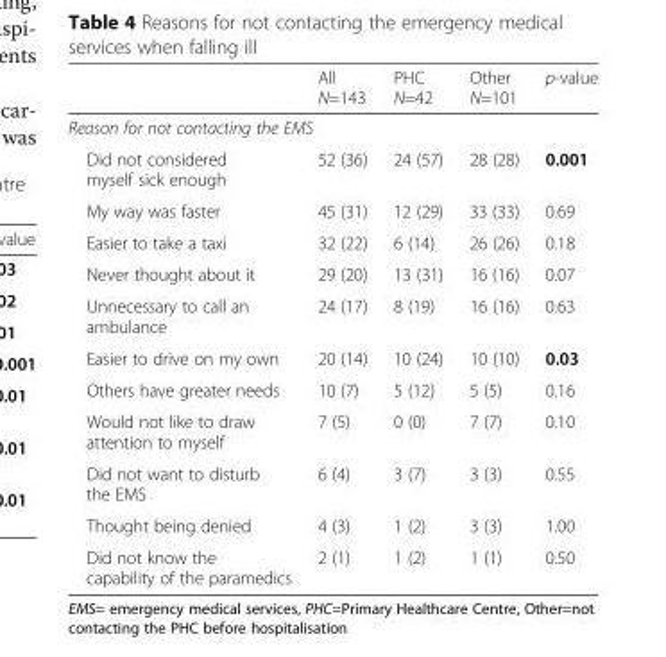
<table><thead><tr><td></td><td>All N=143</td><td>PHC N=42</td><td>Other N=101</td><td>p-value</td></tr></thead><tbody><tr><td colspan="5">Reason for not contacting the EMS</td></tr><tr><td>Did not considered myself sick enough</td><td>52 (36)</td><td>24 (57)</td><td>28 (28)</td><td>0.001</td></tr><tr><td>My way was faster</td><td>45 (31)</td><td>12 (29)</td><td>33 (33)</td><td>0.69</td></tr><tr><td>Easier to take a taxi</td><td>32 (22)</td><td>6 (14)</td><td>26 (26)</td><td>0.18</td></tr><tr><td>Never thought about it</td><td>29 (20)</td><td>13 (31)</td><td>16 (16)</td><td>0.07</td></tr><tr><td>Unnecessary to call an ambulance</td><td>24 (17)</td><td>8 (19)</td><td>16 (16)</td><td>0.63</td></tr><tr><td>Easier to drive on my own</td><td>20 (14)</td><td>10 (24)</td><td>10 (10)</td><td>0.03</td></tr><tr><td>Others have greater needs</td><td>10 (7)</td><td>5 (12)</td><td>5 (5)</td><td>0.16</td></tr><tr><td>Would not like to draw attention to myself</td><td>7 (5)</td><td>0 (0)</td><td>7 (7)</td><td>0.10</td></tr><tr><td>Did not want to disturb the EMS</td><td>6 (4)</td><td>3 (7)</td><td>3 (3)</td><td>0.55</td></tr><tr><td>Thought being denied</td><td>4 (3)</td><td>1 (2)</td><td>3 (3)</td><td>1.00</td></tr><tr><td>Did not know the capability of the paramedics</td><td>2 (1)</td><td>1 (2)</td><td>1 (1)</td><td>0.50</td></tr></tbody></table>